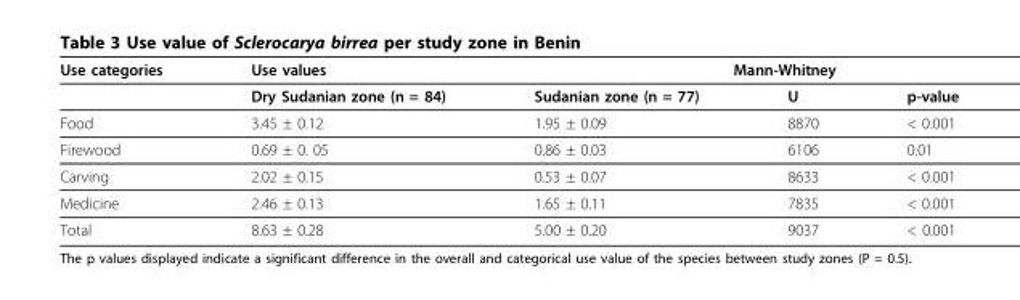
<table><thead><tr><td rowspan="2">Use categories</td><td rowspan="2">Use values Dry Sudanian zone (n = 84)</td><td colspan="3">Mann-Whitney</td></tr><tr><td>Sudanian zone (n = 77)</td><td>U</td><td>p-value</td></tr></thead><tbody><tr><td>Food</td><td>3.45 ± 0.12</td><td>1.95 ± 0.09</td><td>8870</td><td>&lt; 0.001</td></tr><tr><td>Firewood</td><td>0.69 ± 0. 05</td><td>0.86 ± 0.03</td><td>6106</td><td>0.01</td></tr><tr><td>Carving</td><td>2.02 ± 0.15</td><td>0.53 ± 0.07</td><td>8633</td><td>&lt; 0.001</td></tr><tr><td>Medicine</td><td>2.46 ± 0.13</td><td>1.65 ± 0.11</td><td>7835</td><td>&lt; 0.001</td></tr><tr><td>Total</td><td>8.63 ± 0.28</td><td>5.00 ± 0.20</td><td>9037</td><td>&lt; 0.001</td></tr></tbody></table>